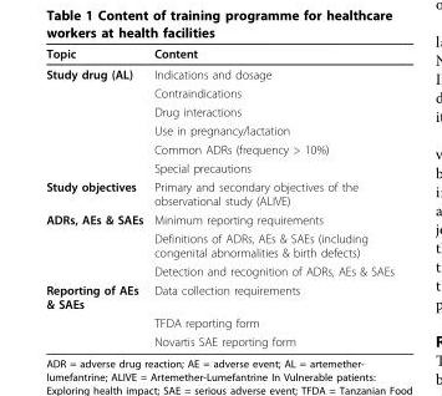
<table><thead><tr><td>Topic</td><td>Content</td></tr></thead><tbody><tr><td rowspan="6">Study drug (AL)</td><td>Indications and dosage</td></tr><tr><td>Contraindications</td></tr><tr><td>Drug interactions</td></tr><tr><td>Use in pregnancy/lactation</td></tr><tr><td>Common ADRs (frequency &gt; 10%)</td></tr><tr><td>Special precautions</td></tr><tr><td>Study objectives</td><td>Primary and secondary objectives of the observational study (ALIVE)</td></tr><tr><td rowspan="3">ADRs, AEs &amp; SAEs</td><td>Minimum reporting requirements</td></tr><tr><td>Definitions of ADRs, AEs &amp; SAEs (including congenital abnormalities &amp; birth defects)</td></tr><tr><td>Detection and recognition of ADRs, AEs &amp; SAEs</td></tr><tr><td rowspan="3">Reporting of AEs &amp; SAEs</td><td>Data collection requirements</td></tr><tr><td>TFDA reporting form</td></tr><tr><td>Novartis SAE reporting form</td></tr></tbody></table>